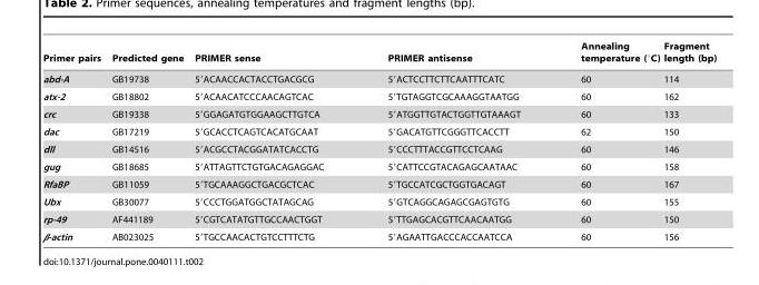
<table><thead><tr><td>Primer pairs</td><td>Predicted gene</td><td>PRIMER sense</td><td>PRIMER antisense</td><td>Annealing temperature (°C)</td><td>Fragment length (bp)</td></tr></thead><tbody><tr><td>abd-A</td><td>GB19738</td><td>5′ACAACCACTACCTGACGCG</td><td>5′ACTCCTTCTTCAATTTCATC</td><td>60</td><td>114</td></tr><tr><td>atx-2</td><td>GB18802</td><td>5′ACAACATCCCAACAGTCAC</td><td>5′TGTAGGTCGCAAAGGTAATGG</td><td>60</td><td>162</td></tr><tr><td>crc</td><td>GB19338</td><td>5′GGAGATGTGGAAGCTTGTCA</td><td>5′ATGGTTGTACTGGTTGTAAAGT</td><td>60</td><td>133</td></tr><tr><td>dac</td><td>GB17219</td><td>5′GCACCTCAGTCACATGCAAT</td><td>5′GACATGTTCGGGTTCACCTT</td><td>62</td><td>150</td></tr><tr><td>dll</td><td>GB14516</td><td>5′ACGCCTACGGATATCACCTG</td><td>5′CCCTTTACCGTTCCTCAAG</td><td>60</td><td>146</td></tr><tr><td>gug</td><td>GB18685</td><td>5′ATTAGTTCTGTGACAGAGGAC</td><td>5′CATTCCGTACAGAGCAATAAC</td><td>60</td><td>158</td></tr><tr><td>RfaBP</td><td>GB11059</td><td>5′TGCAAAGGCTGACGCTCAC</td><td>5′TGCCATCGCTGGTGACAGT</td><td>60</td><td>167</td></tr><tr><td>Ubx</td><td>GB30077</td><td>5′CCCTGGATGGCTATAGCAG</td><td>5′GTCAGGCAGAGCGAGTGTG</td><td>60</td><td>155</td></tr><tr><td>rp-49</td><td>AF441189</td><td>5′CGTCATATGTTGCCAACTGGT</td><td>5′TTGAGCACGTTCAACAATGG</td><td>60</td><td>150</td></tr><tr><td>β-actin</td><td>AB023025</td><td>5′TGCCAACACTGTCCTTTCTG</td><td>5′AGAATTGACCCACCAATCCA</td><td>60</td><td>156</td></tr></tbody></table>